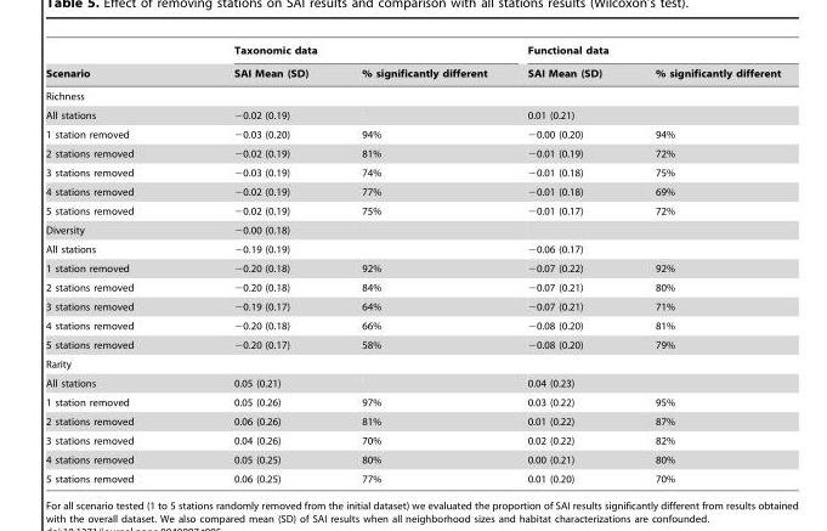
<table><thead><tr><td rowspan="2">Scenario</td><td colspan="2">Taxonomic data</td><td colspan="2">Functional data</td></tr><tr><td>SAI Mean (SD)</td><td>% significantly different</td><td>SAI Mean (SD)</td><td>% significantly different</td></tr></thead><tbody><tr><td colspan="5">Richness</td></tr><tr><td>All stations</td><td>−0.02 (0.19)</td><td></td><td>0.01 (0.21)</td><td></td></tr><tr><td>1 station removed</td><td>−0.03 (0.20)</td><td>94%</td><td>−0.00 (0.20)</td><td>94%</td></tr><tr><td>2 stations removed</td><td>−0.02 (0.19)</td><td>81%</td><td>−0.01 (0.19)</td><td>72%</td></tr><tr><td>3 stations removed</td><td>−0.03 (0.19)</td><td>74%</td><td>−0.01 (0.18)</td><td>75%</td></tr><tr><td>4 stations removed</td><td>−0.02 (0.19)</td><td>77%</td><td>−0.01 (0.18)</td><td>69%</td></tr><tr><td>5 stations removed</td><td>−0.02 (0.19)</td><td>75%</td><td>−0.01 (0.17)</td><td>72%</td></tr><tr><td>Diversity</td><td>−0.00 (0.18)</td><td></td><td></td><td></td></tr><tr><td>All stations</td><td>−0.19 (0.19)</td><td></td><td>−0.06 (0.17)</td><td></td></tr><tr><td>1 station removed</td><td>−0.20 (0.18)</td><td>92%</td><td>−0.07 (0.22)</td><td>92%</td></tr><tr><td>2 stations removed</td><td>−0.20 (0.18)</td><td>84%</td><td>−0.07 (0.21)</td><td>80%</td></tr><tr><td>3 stations removed</td><td>−0.19 (0.17)</td><td>64%</td><td>−0.07 (0.21)</td><td>71%</td></tr><tr><td>4 stations removed</td><td>−0.20 (0.18)</td><td>66%</td><td>−0.08 (0.20)</td><td>81%</td></tr><tr><td>5 stations removed</td><td>−0.20 (0.17)</td><td>58%</td><td>−0.08 (0.20)</td><td>79%</td></tr><tr><td colspan="5">Rarity</td></tr><tr><td>All stations</td><td>0.05 (0.21)</td><td></td><td>0.04 (0.23)</td><td></td></tr><tr><td>1 station removed</td><td>0.05 (0.26)</td><td>97%</td><td>0.03 (0.22)</td><td>95%</td></tr><tr><td>2 stations removed</td><td>0.06 (0.26)</td><td>81%</td><td>0.01 (0.22)</td><td>87%</td></tr><tr><td>3 stations removed</td><td>0.04 (0.26)</td><td>70%</td><td>0.02 (0.22)</td><td>82%</td></tr><tr><td>4 stations removed</td><td>0.05 (0.25)</td><td>80%</td><td>0.00 (0.21)</td><td>80%</td></tr><tr><td>5 stations removed</td><td>0.06 (0.25)</td><td>77%</td><td>0.01 (0.20)</td><td>70%</td></tr></tbody></table>